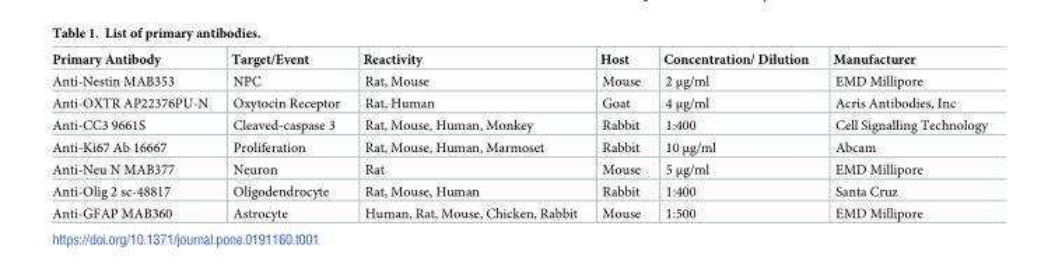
<table><thead><tr><td>Primary Antibody</td><td>Target/Event</td><td>Reactivity</td><td>Host</td><td>Concentration/ Dilution</td><td>Manufacturer</td></tr></thead><tbody><tr><td>Anti-Nestin MAB353</td><td>NPC</td><td>Rat, Mouse</td><td>Mouse</td><td>2 μg/ml</td><td>EMD Millipore</td></tr><tr><td>Anti-OXTR AP22376PU-N</td><td>Oxytocin Receptor</td><td>Rat, Human</td><td>Goat</td><td>4 μg/ml</td><td>Acris Antibodies, Inc</td></tr><tr><td>Anti-CC3 9661S</td><td>Cleaved-caspase 3</td><td>Rat, Mouse, Human, Monkey</td><td>Rabbit</td><td>1:400</td><td>Cell Signalling Technology</td></tr><tr><td>Anti-Ki67 Ab 16667</td><td>Proliferation</td><td>Rat, Mouse, Human, Marmoset</td><td>Rabbit</td><td>10 μg/ml</td><td>Abcam</td></tr><tr><td>Anti-Neu N MAB377</td><td>Neuron</td><td>Rat</td><td>Mouse</td><td>5 μg/ml</td><td>EMD Millipore</td></tr><tr><td>Anti-Olig 2 sc-48817</td><td>Oligodendrocyte</td><td>Rat, Mouse, Human</td><td>Rabbit</td><td>1:400</td><td>Santa Cruz</td></tr><tr><td>Anti-GFAP MAB360</td><td>Astrocyte</td><td>Human, Rat, Mouse, Chicken, Rabbit</td><td>Mouse</td><td>1:500</td><td>EMD Millipore</td></tr></tbody></table>